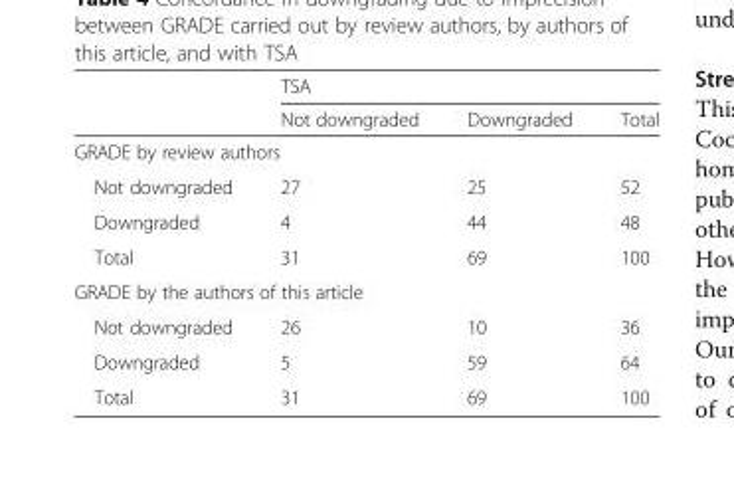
<table><thead><tr><td rowspan="2"></td><td colspan="3">TSA</td></tr><tr><td>Not downgraded</td><td>Downgraded</td><td>Total</td></tr></thead><tbody><tr><td colspan="4">GRADE by review authors</td></tr><tr><td>Not downgraded</td><td>27</td><td>25</td><td>52</td></tr><tr><td>Downgraded</td><td>4</td><td>44</td><td>48</td></tr><tr><td>Total</td><td>31</td><td>69</td><td>100</td></tr><tr><td colspan="4">GRADE by the authors of this article</td></tr><tr><td>Not downgraded</td><td>26</td><td>10</td><td>36</td></tr><tr><td>Downgraded</td><td>5</td><td>59</td><td>64</td></tr><tr><td>Total</td><td>31</td><td>69</td><td>100</td></tr></tbody></table>